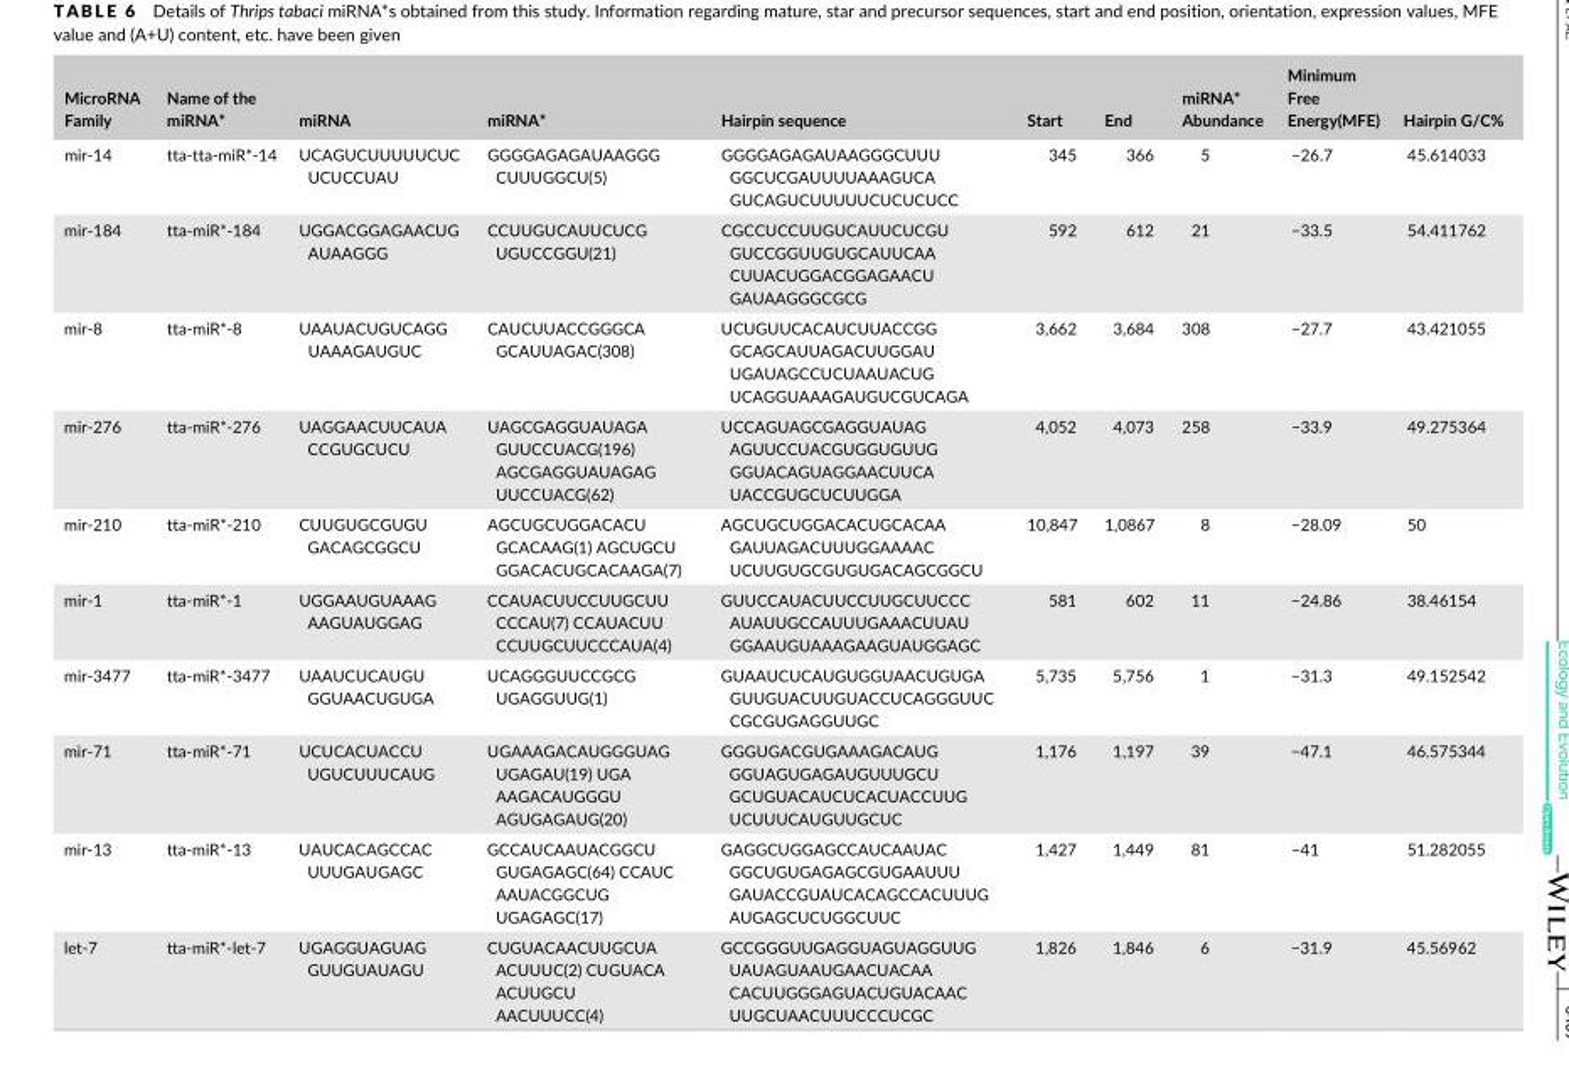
<table><thead><tr><td>MicroRNA Family</td><td>Name of the miRNA*</td><td>miRNA</td><td>miRNA*</td><td>Hairpin sequence</td><td>Start</td><td>End</td><td>miRNA* Abundance</td><td>Minimum Free Energy(MFE)</td><td>Hairpin G/C%</td></tr></thead><tbody><tr><td>mir- 14</td><td>tta- tta- miR*- 14</td><td>UCAGUCUUUUUCUC UCUCCUAU</td><td>GGGGAGAGAUAAGGG CUUUGGCU(5)</td><td>GGGGAGAGAUAAGGGCUUU GGCUCGAUUUUAAAGUCA GUCAGUCUUUUUCUCUCUCC</td><td>345</td><td>366</td><td>5</td><td>−26.7</td><td>45.614033</td></tr><tr><td>mir- 184</td><td>tta- miR*- 184</td><td>UGGACGGAGAACUG AUAAGGG</td><td>CCUUGUCAUUCUCG UGUCCGGU(21)</td><td>CGCCUCCUUGUCAUUCUCGU GUCCGGUUGUGCAUUCAA CUUACUGGACGGAGAACU GAUAAGGGCGCG</td><td>592</td><td>612</td><td>21</td><td>−33.5</td><td>54.411762</td></tr><tr><td>mir- 8</td><td>tta- miR*- 8</td><td>UAAUACUGUCAGG UAAAGAUGUC</td><td>CAUCUUACCGGGCA GCAUUAGAC(308)</td><td>UCUGUUCACAUCUUACCGG GCAGCAUUAGACUUGGAU UGAUAGCCUCUAAUACUG UCAGGUAAAGAUGUCGUCAGA</td><td>3,662</td><td>3,684</td><td>308</td><td>−27.7</td><td>43.421055</td></tr><tr><td>mir- 276</td><td>tta- miR*- 276</td><td>UAGGAACUUCAUA CCGUGCUCU</td><td>UAGCGAGGUAUAGA GUUCCUACG(196) AGCGAGGUAUAGAG UUCCUACG(62)</td><td>UCCAGUAGCGAGGUAUAG AGUUCCUACGUGGUGUUG GGUACAGUAGGAACUUCA UACCGUGCUCUUGGA</td><td>4,052</td><td>4,073</td><td>258</td><td>−33.9</td><td>49.275364</td></tr><tr><td>mir- 210</td><td>tta- miR*- 210</td><td>CUUGUGCGUGU GACAGCGGCU</td><td>AGCUGCUGGACACU GCACAAG(1) AGCUGCU GGACACUGCACAAGA(7)</td><td>AGCUGCUGGACACUGCACAA GAUUAGACUUUGGAAAAC UCUUGUGCGUGUGACAGCGGCU</td><td>10,847</td><td>1,0867</td><td>8</td><td>−28.09</td><td>50</td></tr><tr><td>mir- 1</td><td>tta- miR*- 1</td><td>UGGAAUGUAAAG AAGUAUGGAG</td><td>CCAUACUUCCUUGCUU CCCAU(7) CCAUACUU CCUUGCUUCCCAUA(4)</td><td>GUUCCAUACUUCCUUGCUUCCC AUAUUGCCAUUUGAAACUUAU GGAAUGUAAAGAAGUAUGGAGC</td><td>581</td><td>602</td><td>11</td><td>−24.86</td><td>38.46154</td></tr><tr><td>mir- 3477</td><td>tta- miR*- 3477</td><td>UAAUCUCAUGU GGUAACUGUGA</td><td>UCAGGGUUCCGCG UGAGGUUG(1)</td><td>GUAAUCUCAUGUGGUAACUGUGA GUUGUACUUGUACCUCAGGGUUC CGCGUGAGGUUGC</td><td>5,735</td><td>5,756</td><td>1</td><td>−31.3</td><td>49.152542</td></tr><tr><td>mir- 71</td><td>tta- miR*- 71</td><td>UCUCACUACCU UGUCUUUCAUG</td><td>UGAAAGACAUGGGUAG UGAGAU(19) UGA AAGACAUGGGU AGUGAGAUG(20)</td><td>GGGUGACGUGAAAGACAUG GGUAGUGAGAUGUUUGCU GCUGUACAUCUCACUACCUUG UCUUUCAUGUUGCUC</td><td>1,176</td><td>1,197</td><td>39</td><td>−47.1</td><td>46.575344</td></tr><tr><td>mir- 13</td><td>tta- miR*- 13</td><td>UAUCACAGCCAC UUUGAUGAGC</td><td>GCCAUCAAUACGGCU GUGAGAGC(64) CCAUC AAUACGGCUG UGAGAGC(17)</td><td>GAGGCUGGAGCCAUCAAUAC GGCUGUGAGAGCGUGAAUUU GAUACCGUAUCACAGCCACUUUG AUGAGCUCUGGCUUC</td><td>1,427</td><td>1,449</td><td>81</td><td>−41</td><td>51.282055</td></tr><tr><td>let- 7</td><td>tta- miR*- let- 7</td><td>UGAGGUAGUAG GUUGUAUAGU</td><td>CUGUACAACUUGCUA ACUUUC(2) CUGUACA ACUUGCU AACUUUCC(4)</td><td>GCCGGGUUGAGGUAGUAGGUUG UAUAGUAAUGAACUACAA CACUUGGGAGUACUGUACAAC UUGCUAACUUUCCCUCGC</td><td>1,826</td><td>1,846</td><td>6</td><td>−31.9</td><td>45.56962</td></tr></tbody></table>